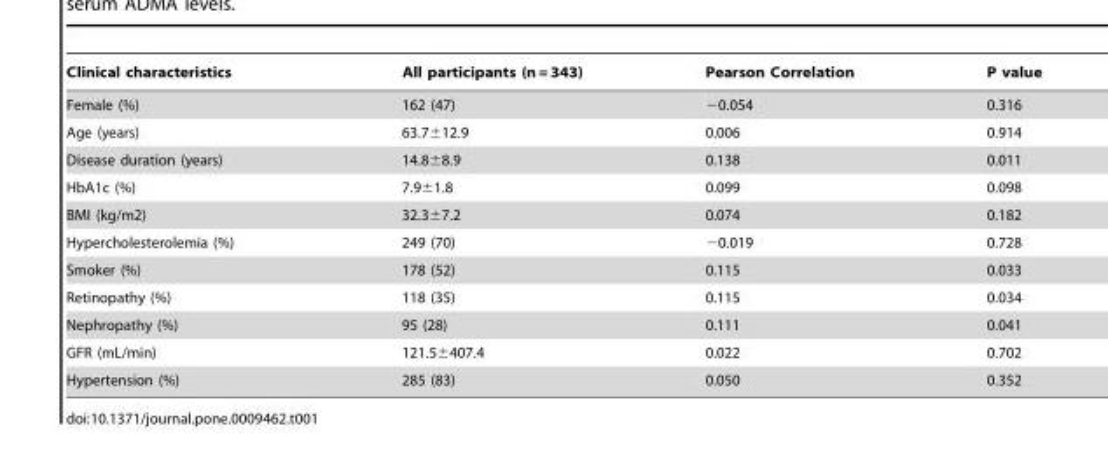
<table><thead><tr><td>Clinical characteristics</td><td>All participants (n = 343)</td><td>Pearson Correlation</td><td>P value</td></tr></thead><tbody><tr><td>Female (%)</td><td>162 (47)</td><td>−0.054</td><td>0.316</td></tr><tr><td>Age (years)</td><td>63.7±12.9</td><td>0.006</td><td>0.914</td></tr><tr><td>Disease duration (years)</td><td>14.8±8.9</td><td>0.138</td><td>0.011</td></tr><tr><td>HbA1c (%)</td><td>7.9±1.8</td><td>0.099</td><td>0.098</td></tr><tr><td>BMI (kg/m2)</td><td>32.3±7.2</td><td>0.074</td><td>0.182</td></tr><tr><td>Hypercholesterolemia (%)</td><td>249 (70)</td><td>−0.019</td><td>0.728</td></tr><tr><td>Smoker (%)</td><td>178 (52)</td><td>0.115</td><td>0.033</td></tr><tr><td>Retinopathy (%)</td><td>118 (35)</td><td>0.115</td><td>0.034</td></tr><tr><td>Nephropathy (%)</td><td>95 (28)</td><td>0.111</td><td>0.041</td></tr><tr><td>GFR (mL/min)</td><td>121.5±407.4</td><td>0.022</td><td>0.702</td></tr><tr><td>Hypertension (%)</td><td>285 (83)</td><td>0.050</td><td>0.352</td></tr></tbody></table>